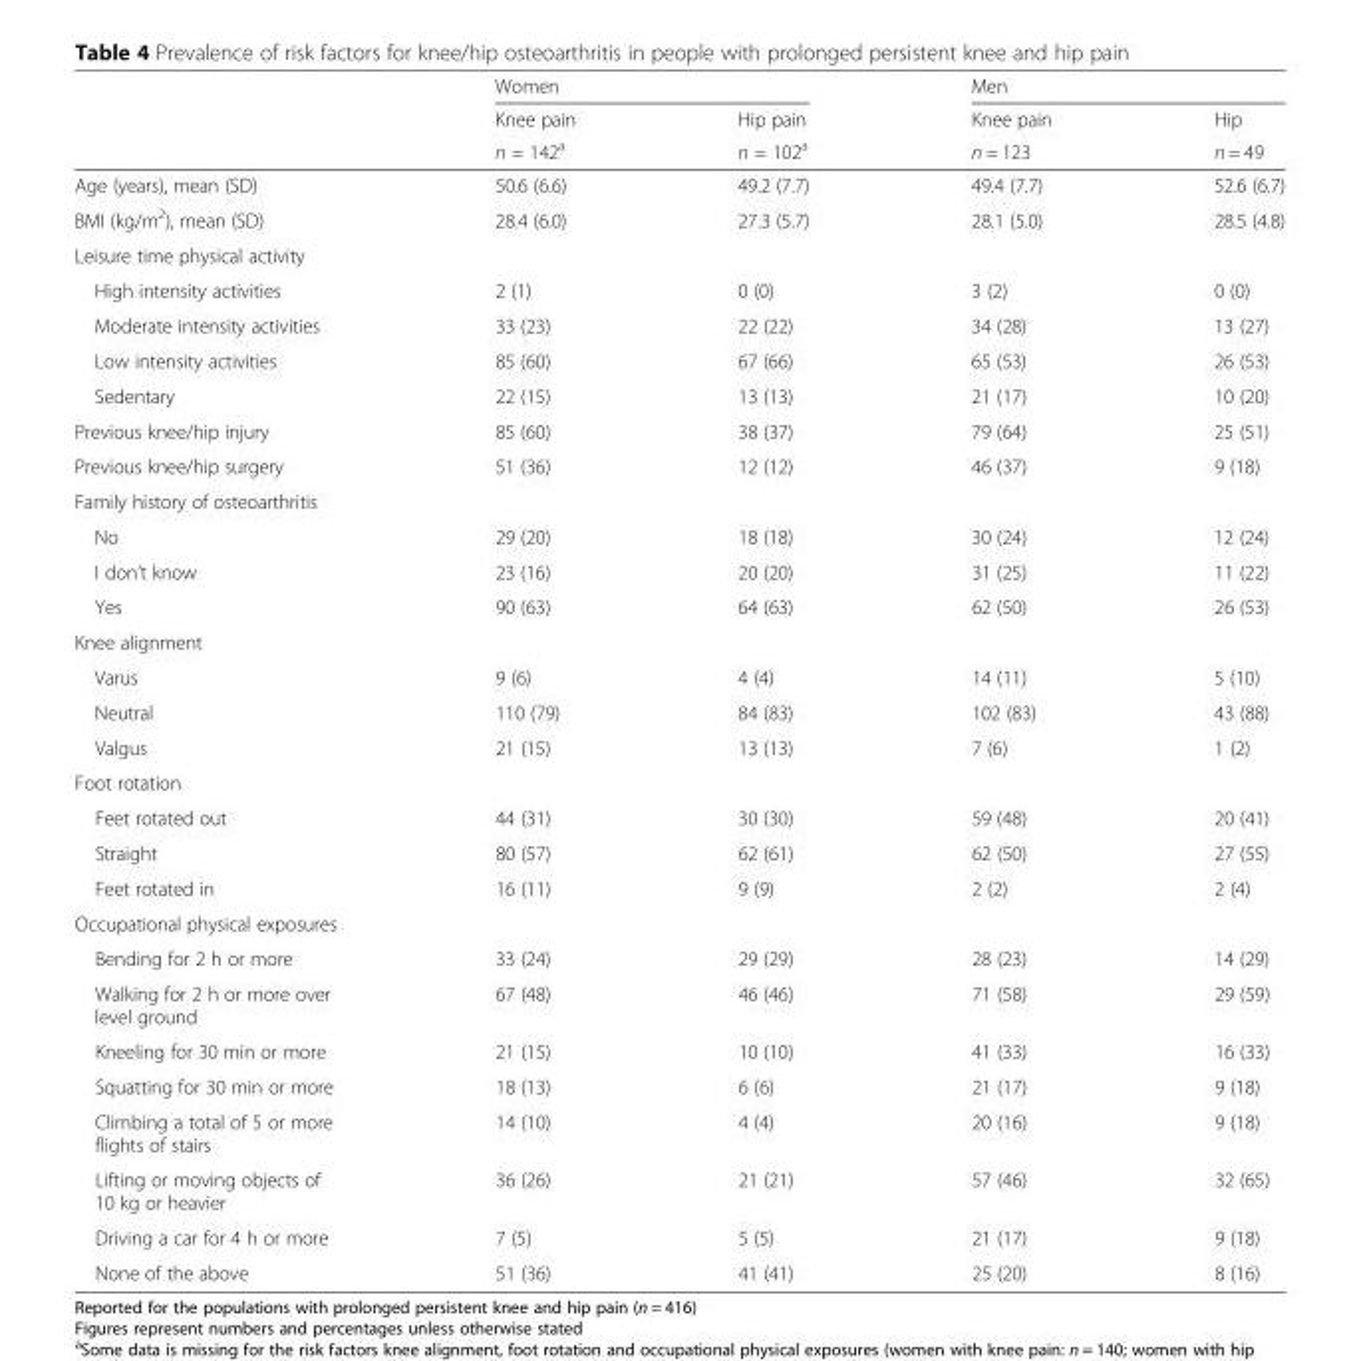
<table><thead><tr><td rowspan="3"></td><td colspan="2">Women</td><td colspan="2">Men</td></tr><tr><td rowspan="2">Knee pain n = 142<sup>a</sup></td><td rowspan="2">Hip pain n = 102<sup>a</sup></td><td rowspan="2">Knee pain n = 123</td><td rowspan="2">Hip n = 49</td></tr><tr></tr></thead><tbody><tr><td>Age (years), mean (SD)</td><td>50.6 (6.6)</td><td>49.2 (7.7)</td><td>49.4 (7.7)</td><td>52.6 (6.7)</td></tr><tr><td>BMI (kg/m<sup>2</sup>), mean (SD)</td><td>28.4 (6.0)</td><td>27.3 (5.7)</td><td>28.1 (5.0)</td><td>28.5 (4.8)</td></tr><tr><td colspan="5">Leisure time physical activity</td></tr><tr><td>High intensity activities</td><td>2 (1)</td><td>0 (0)</td><td>3 (2)</td><td>0 (0)</td></tr><tr><td>Moderate intensity activities</td><td>33 (23)</td><td>22 (22)</td><td>34 (28)</td><td>13 (27)</td></tr><tr><td>Low intensity activities</td><td>85 (60)</td><td>67 (66)</td><td>65 (53)</td><td>26 (53)</td></tr><tr><td>Sedentary</td><td>22 (15)</td><td>13 (13)</td><td>21 (17)</td><td>10 (20)</td></tr><tr><td>Previous knee/hip injury</td><td>85 (60)</td><td>38 (37)</td><td>79 (64)</td><td>25 (51)</td></tr><tr><td>Previous knee/hip surgery</td><td>51 (36)</td><td>12 (12)</td><td>46 (37)</td><td>9 (18)</td></tr><tr><td colspan="5">Family history of osteoarthritis</td></tr><tr><td>No</td><td>29 (20)</td><td>18 (18)</td><td>30 (24)</td><td>12 (24)</td></tr><tr><td>I don’t know</td><td>23 (16)</td><td>20 (20)</td><td>31 (25)</td><td>11 (22)</td></tr><tr><td>Yes</td><td>90 (63)</td><td>64 (63)</td><td>62 (50)</td><td>26 (53)</td></tr><tr><td colspan="5">Knee alignment</td></tr><tr><td>Varus</td><td>9 (6)</td><td>4 (4)</td><td>14 (11)</td><td>5 (10)</td></tr><tr><td>Neutral</td><td>110 (79)</td><td>84 (83)</td><td>102 (83)</td><td>43 (88)</td></tr><tr><td>Valgus</td><td>21 (15)</td><td>13 (13)</td><td>7 (6)</td><td>1 (2)</td></tr><tr><td colspan="5">Foot rotation</td></tr><tr><td>Feet rotated out</td><td>44 (31)</td><td>30 (30)</td><td>59 (48)</td><td>20 (41)</td></tr><tr><td>Straight</td><td>80 (57)</td><td>62 (61)</td><td>62 (50)</td><td>27 (55)</td></tr><tr><td>Feet rotated in</td><td>16 (11)</td><td>9 (9)</td><td>2 (2)</td><td>2 (4)</td></tr><tr><td colspan="5">Occupational physical exposures</td></tr><tr><td>Bending for 2 h or more</td><td>33 (24)</td><td>29 (29)</td><td>28 (23)</td><td>14 (29)</td></tr><tr><td>Walking for 2 h or more over level ground</td><td>67 (48)</td><td>46 (46)</td><td>71 (58)</td><td>29 (59)</td></tr><tr><td>Kneeling for 30 min or more</td><td>21 (15)</td><td>10 (10)</td><td>41 (33)</td><td>16 (33)</td></tr><tr><td>Squatting for 30 min or more</td><td>18 (13)</td><td>6 (6)</td><td>21 (17)</td><td>9 (18)</td></tr><tr><td>Climbing a total of 5 or more flights of stairs</td><td>14 (10)</td><td>4 (4)</td><td>20 (16)</td><td>9 (18)</td></tr><tr><td>Lifting or moving objects of 10 kg or heavier</td><td>36 (26)</td><td>21 (21)</td><td>57 (46)</td><td>32 (65)</td></tr><tr><td>Driving a car for 4 h or more</td><td>7 (5)</td><td>5 (5)</td><td>21 (17)</td><td>9 (18)</td></tr><tr><td>None of the above</td><td>51 (36)</td><td>41 (41)</td><td>25 (20)</td><td>8 (16)</td></tr></tbody></table>